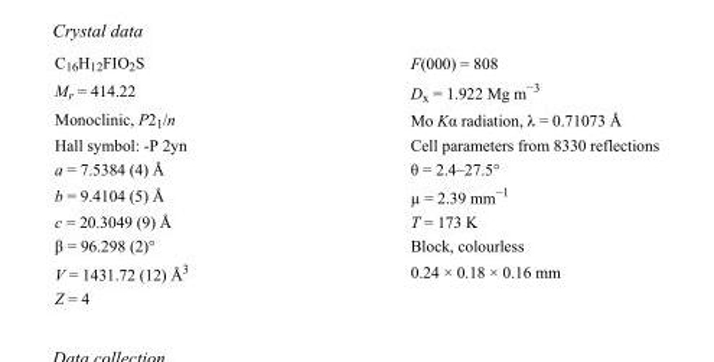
<table><tbody><tr><td>C<sub>16</sub>H<sub>12</sub>FIO<sub>2</sub>S</td><td>F(000) = 808</td></tr><tr><td>M<sub>r</sub> = 414.22</td><td>D<sub>x</sub> = 1.922 Mg m<sup>−3</sup></td></tr><tr><td>Monoclinic, P2<sub>1</sub>/n</td><td>Mo Kα radiation, λ = 0.71073 Å</td></tr><tr><td>Hall symbol: -P 2yn</td><td>Cell parameters from 8330 reflections</td></tr><tr><td>a = 7.5384 (4) Å</td><td>θ = 2.4–27.5°</td></tr><tr><td>b = 9.4104 (5) Å</td><td>µ = 2.39 mm<sup>−1</sup></td></tr><tr><td>c = 20.3049 (9) Å</td><td>T = 173 K</td></tr><tr><td>β = 96.298 (2)°</td><td>Block, colourless</td></tr><tr><td>V = 1431.72 (12) Å<sup>3</sup></td><td>0.24 × 0.18 × 0.16 mm</td></tr><tr><td>Z = 4</td><td></td></tr></tbody></table>